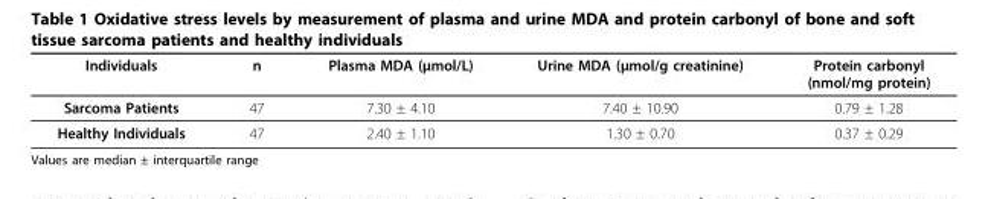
<table><thead><tr><td>Individuals</td><td>n</td><td>Plasma MDA (μmol/L)</td><td>Urine MDA (μmol/g creatinine)</td><td>Protein carbonyl (nmol/mg protein)</td></tr></thead><tbody><tr><td>Sarcoma Patients</td><td>47</td><td>7.30 ± 4.10</td><td>7.40 ± 10.90</td><td>0.79 ± 1.28</td></tr><tr><td>Healthy Individuals</td><td>47</td><td>2.40 ± 1.10</td><td>1.30 ± 0.70</td><td>0.37 ± 0.29</td></tr></tbody></table>